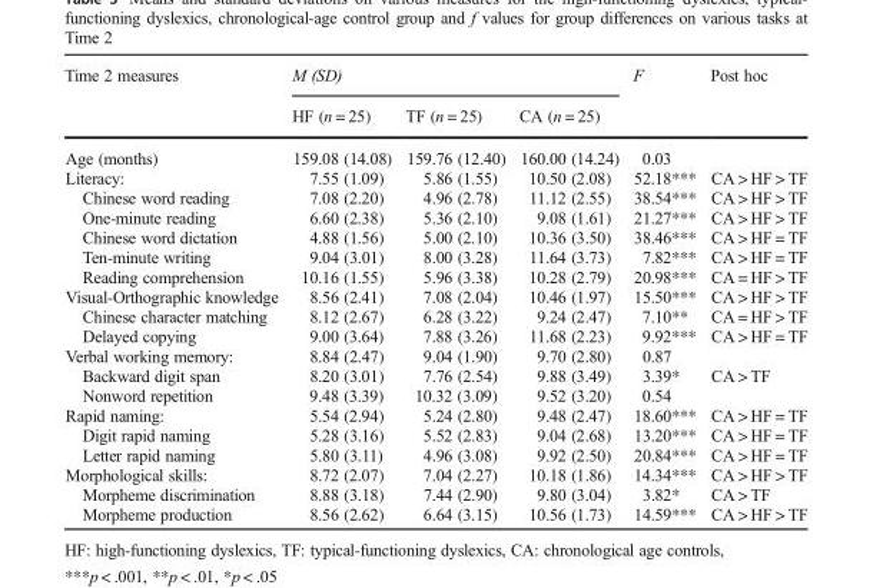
<table><thead><tr><td rowspan="2">Time 2 measures</td><td colspan="3">M (SD)</td><td rowspan="2">F</td><td rowspan="2">Post hoc</td></tr><tr><td>HF (n = 25)</td><td>TF (n = 25)</td><td>CA (n = 25)</td></tr></thead><tbody><tr><td>Age (months)</td><td>159.08 (14.08)</td><td>159.76 (12.40)</td><td>160.00 (14.24)</td><td>0.03</td><td></td></tr><tr><td>Literacy:</td><td>7.55 (1.09)</td><td>5.86 (1.55)</td><td>10.50 (2.08)</td><td>52.18***</td><td>CA &gt; HF &gt; TF</td></tr><tr><td>Chinese word reading</td><td>7.08 (2.20)</td><td>4.96 (2.78)</td><td>11.12 (2.55)</td><td>38.54***</td><td>CA &gt; HF &gt; TF</td></tr><tr><td>One-minute reading</td><td>6.60 (2.38)</td><td>5.36 (2.10)</td><td>9.08 (1.61)</td><td>21.27***</td><td>CA &gt; HF &gt; TF</td></tr><tr><td>Chinese word dictation</td><td>4.88 (1.56)</td><td>5.00 (2.10)</td><td>10.36 (3.50)</td><td>38.46***</td><td>CA &gt; HF = TF</td></tr><tr><td>Ten-minute writing</td><td>9.04 (3.01)</td><td>8.00 (3.28)</td><td>11.64 (3.73)</td><td>7.82***</td><td>CA &gt; HF = TF</td></tr><tr><td>Reading comprehension</td><td>10.16 (1.55)</td><td>5.96 (3.38)</td><td>10.28 (2.79)</td><td>20.98***</td><td>CA = HF &gt; TF</td></tr><tr><td>Visual-Orthographic knowledge</td><td>8.56 (2.41)</td><td>7.08 (2.04)</td><td>10.46 (1.97)</td><td>15.50***</td><td>CA &gt; HF &gt; TF</td></tr><tr><td>Chinese character matching</td><td>8.12 (2.67)</td><td>6.28 (3.22)</td><td>9.24 (2.47)</td><td>7.10**</td><td>CA = HF &gt; TF</td></tr><tr><td>Delayed copying</td><td>9.00 (3.64)</td><td>7.88 (3.26)</td><td>11.68 (2.23)</td><td>9.92***</td><td>CA &gt; HF = TF</td></tr><tr><td>Verbal working memory:</td><td>8.84 (2.47)</td><td>9.04 (1.90)</td><td>9.70 (2.80)</td><td>0.87</td><td></td></tr><tr><td>Backward digit span</td><td>8.20 (3.01)</td><td>7.76 (2.54)</td><td>9.88 (3.49)</td><td>3.39*</td><td>CA &gt; TF</td></tr><tr><td>Nonword repetition</td><td>9.48 (3.39)</td><td>10.32 (3.09)</td><td>9.52 (3.20)</td><td>0.54</td><td></td></tr><tr><td>Rapid naming:</td><td>5.54 (2.94)</td><td>5.24 (2.80)</td><td>9.48 (2.47)</td><td>18.60***</td><td>CA &gt; HF = TF</td></tr><tr><td>Digit rapid naming</td><td>5.28 (3.16)</td><td>5.52 (2.83)</td><td>9.04 (2.68)</td><td>13.20***</td><td>CA &gt; HF = TF</td></tr><tr><td>Letter rapid naming</td><td>5.80 (3.11)</td><td>4.96 (3.08)</td><td>9.92 (2.50)</td><td>20.84***</td><td>CA &gt; HF = TF</td></tr><tr><td>Morphological skills:</td><td>8.72 (2.07)</td><td>7.04 (2.27)</td><td>10.18 (1.86)</td><td>14.34***</td><td>CA &gt; HF &gt; TF</td></tr><tr><td>Morpheme discrimination</td><td>8.88 (3.18)</td><td>7.44 (2.90)</td><td>9.80 (3.04)</td><td>3.82*</td><td>CA &gt; TF</td></tr><tr><td>Morpheme production</td><td>8.56 (2.62)</td><td>6.64 (3.15)</td><td>10.56 (1.73)</td><td>14.59***</td><td>CA &gt; HF &gt; TF</td></tr></tbody></table>